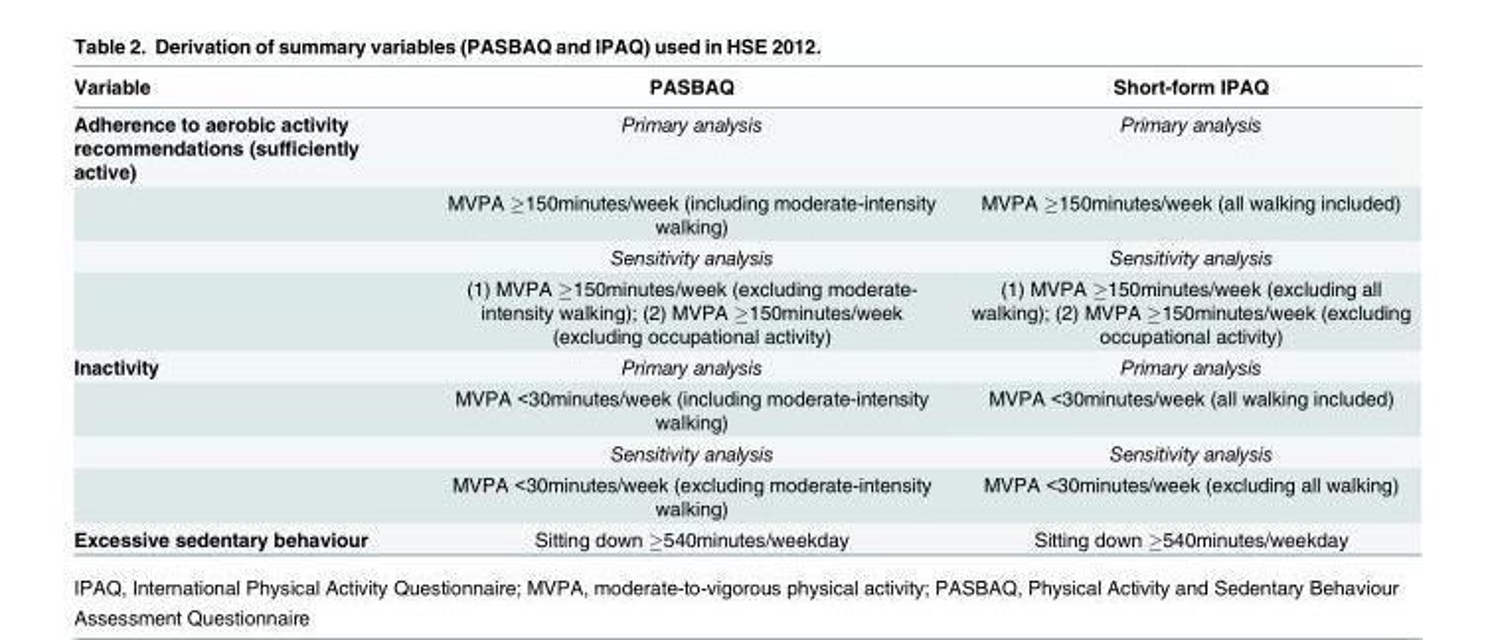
<table><thead><tr><td>Variable</td><td>PASBAQ</td><td>Short-form IPAQ</td></tr></thead><tbody><tr><td rowspan="4">Adherence to aerobic activity recommendations (sufficiently active)</td><td>Primary analysis</td><td>Primary analysis</td></tr><tr><td>MVPA ≥150minutes/week (including moderate-intensity walking)</td><td>MVPA ≥150minutes/week (all walking included)</td></tr><tr><td>Sensitivity analysis</td><td>Sensitivity analysis</td></tr><tr><td>(1) MVPA ≥150minutes/week (excluding moderate- intensity walking); (2) MVPA ≥150minutes/week (excluding occupational activity)</td><td>(1) MVPA ≥150minutes/week (excluding all walking); (2) MVPA ≥150minutes/week (excluding occupational activity)</td></tr><tr><td rowspan="4">Inactivity</td><td>Primary analysis</td><td>Primary analysis</td></tr><tr><td>MVPA &lt;30minutes/week (including moderate-intensity walking)</td><td>MVPA &lt;30minutes/week (all walking included)</td></tr><tr><td>Sensitivity analysis</td><td>Sensitivity analysis</td></tr><tr><td>MVPA &lt;30minutes/week (excluding moderate-intensity walking)</td><td>MVPA &lt;30minutes/week (excluding all walking)</td></tr><tr><td>Excessive sedentary behaviour</td><td>Sitting down ≥540minutes/weekday</td><td>Sitting down ≥540minutes/weekday</td></tr></tbody></table>